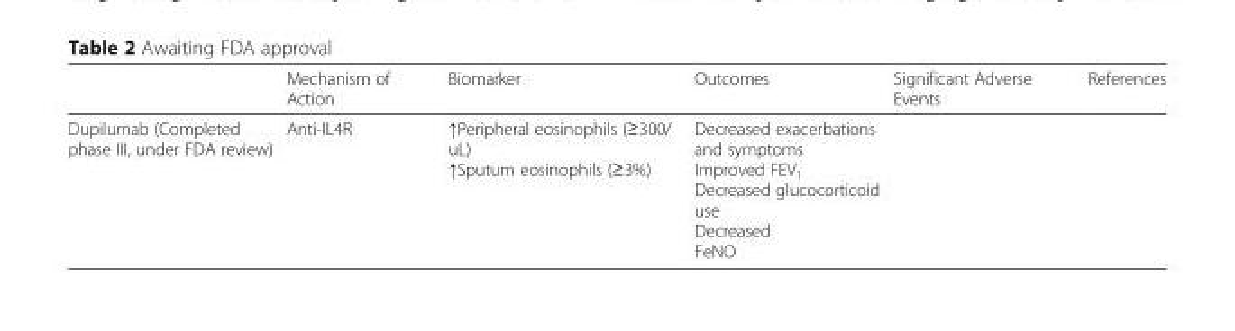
<table><thead><tr><td></td><td>Mechanism of Action</td><td>Biomarker</td><td>Outcomes</td><td>Significant Adverse Events</td><td>References</td></tr></thead><tbody><tr><td>Dupilumab (Completed phase III, under FDA review)</td><td>Anti-IL4R</td><td>↑Peripheral eosinophils (≥300/ uL) ↑Sputum eosinophils (≥3%)</td><td>Decreased exacerbations and symptoms Improved FEV<sub>1</sub> Decreased glucocorticoid use Decreased FeNO</td><td></td><td></td></tr></tbody></table>